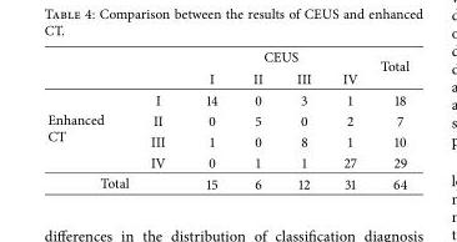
<table><thead><tr><td rowspan="2"></td><td rowspan="2"></td><td colspan="4">CEUS</td><td rowspan="2">Total</td></tr><tr><td>I</td><td>II</td><td>III</td><td>IV</td></tr></thead><tbody><tr><td rowspan="4">Enhanced CT</td><td>I</td><td>14</td><td>0</td><td>3</td><td>1</td><td>18</td></tr><tr><td>II</td><td>0</td><td>5</td><td>0</td><td>2</td><td>7</td></tr><tr><td>III</td><td>1</td><td>0</td><td>8</td><td>1</td><td>10</td></tr><tr><td>IV</td><td>0</td><td>1</td><td>1</td><td>27</td><td>29</td></tr><tr><td colspan="2">Total</td><td>15</td><td>6</td><td>12</td><td>31</td><td>64</td></tr></tbody></table>